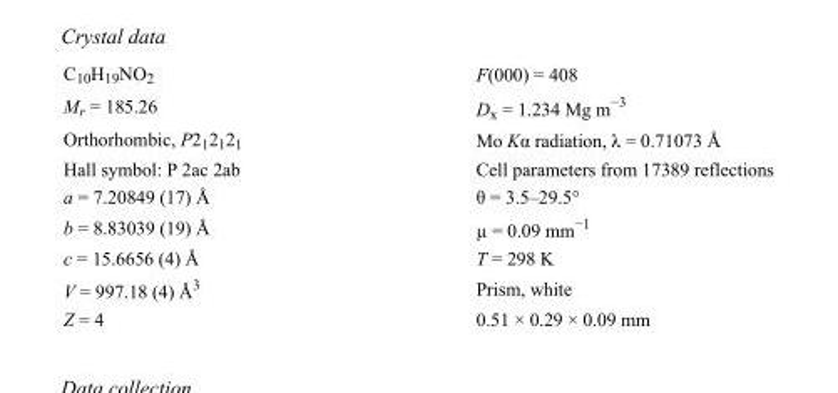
<table><tbody><tr><td>C<sub>10</sub>H<sub>19</sub>NO<sub>2</sub></td><td>F(000) = 408</td></tr><tr><td>M<sub>r</sub> = 185.26</td><td>D<sub>x</sub> = 1.234 Mg m<sup>−3</sup></td></tr><tr><td>Orthorhombic, P2<sub>1</sub>2<sub>1</sub>2<sub>1</sub></td><td>Mo Kα radiation, λ = 0.71073 Å</td></tr><tr><td>Hall symbol: P 2ac 2ab</td><td>Cell parameters from 17389 reflections</td></tr><tr><td>a = 7.20849 (17) Å</td><td>θ = 3.5–29.5°</td></tr><tr><td>b = 8.83039 (19) Å</td><td>µ = 0.09 mm<sup>−1</sup></td></tr><tr><td>c = 15.6656 (4) Å</td><td>T = 298 K</td></tr><tr><td>V = 997.18 (4) Å<sup>3</sup></td><td>Prism, white</td></tr><tr><td>Z = 4</td><td>0.51 × 0.29 × 0.09 mm</td></tr></tbody></table>